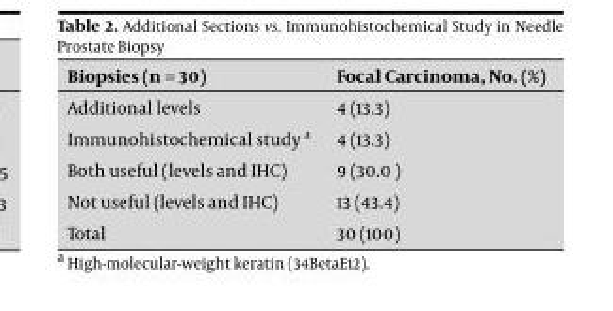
<table><thead><tr><td>Biopsies (n = 30)</td><td>Focal Carcinoma, No. (%)</td></tr></thead><tbody><tr><td>Additional levels</td><td>4 (13.3)</td></tr><tr><td>Immunohistochemical study a</td><td>4 (13.3)</td></tr><tr><td>Both useful (levels and IHC)</td><td>9 (30.0 )</td></tr><tr><td>Not useful (levels and IHC)</td><td>13 (43.4)</td></tr><tr><td>Total</td><td>30 (100)</td></tr></tbody></table>